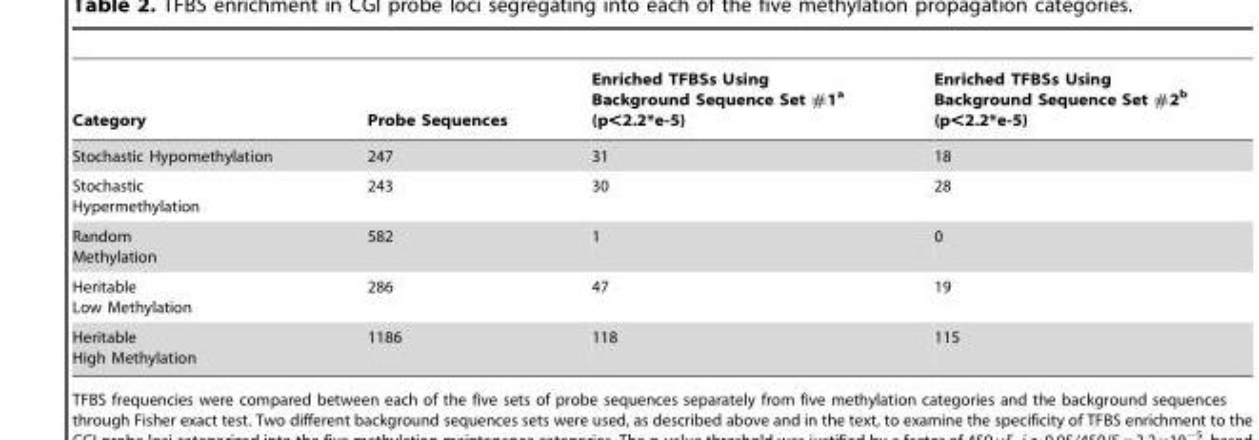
<table><thead><tr><td>Category</td><td>Probe Sequences</td><td>Enriched TFBSs Using Background Sequence Set #1<sup>a</sup> (p&lt;2.2*e-5)</td><td>Enriched TFBSs Using Background Sequence Set #2<sup>b</sup> (p&lt;2.2*e-5)</td></tr></thead><tbody><tr><td>Stochastic Hypomethylation</td><td>247</td><td>31</td><td>18</td></tr><tr><td>Stochastic Hypermethylation</td><td>243</td><td>30</td><td>28</td></tr><tr><td>Random Methylation</td><td>582</td><td>1</td><td>0</td></tr><tr><td>Heritable Low Methylation</td><td>286</td><td>47</td><td>19</td></tr><tr><td>Heritable High Methylation</td><td>1186</td><td>118</td><td>115</td></tr></tbody></table>